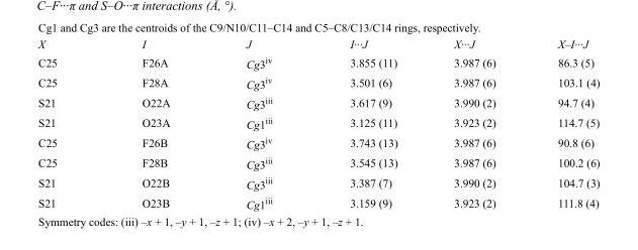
<table><tbody><tr><td>X</td><td>I</td><td>J</td><td>I···J</td><td>X···J</td><td>X–I···J</td></tr><tr><td>C25</td><td>F26A</td><td>Cg3<sup>iv</sup></td><td>3.855 (11)</td><td>3.987 (6)</td><td>86.3 (5)</td></tr><tr><td>C25</td><td>F28A</td><td>Cg3<sup>iv</sup></td><td>3.501 (6)</td><td>3.987 (6)</td><td>103.1 (4)</td></tr><tr><td>S21</td><td>O22A</td><td>Cg3<sup>iii</sup></td><td>3.617 (9)</td><td>3.990 (2)</td><td>94.7 (4)</td></tr><tr><td>S21</td><td>O23A</td><td>Cg1<sup>iii</sup></td><td>3.125 (11)</td><td>3.923 (2)</td><td>114.7 (5)</td></tr><tr><td>C25</td><td>F26B</td><td>Cg3<sup>iv</sup></td><td>3.743 (13)</td><td>3.987 (6)</td><td>90.8 (6)</td></tr><tr><td>C25</td><td>F28B</td><td>Cg3<sup>iii</sup></td><td>3.545 (13)</td><td>3.987 (6)</td><td>100.2 (6)</td></tr><tr><td>S21</td><td>O22B</td><td>Cg3<sup>iii</sup></td><td>3.387 (7)</td><td>3.990 (2)</td><td>104.7 (3)</td></tr><tr><td>S21</td><td>O23B</td><td>Cg1<sup>iii</sup></td><td>3.159 (9)</td><td>3.923 (2)</td><td>111.8 (4)</td></tr></tbody></table>